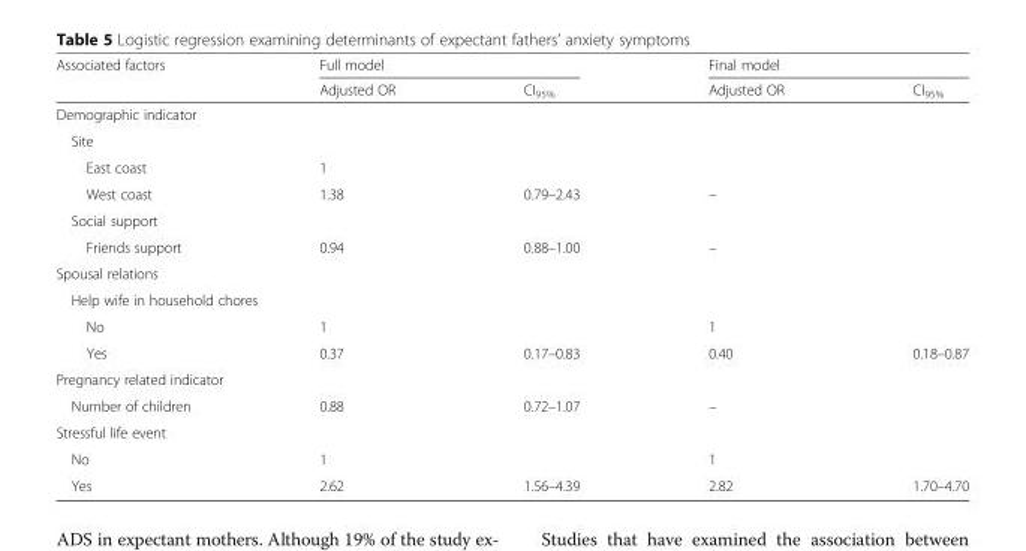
<table><thead><tr><td rowspan="2">Associated factors</td><td colspan="2">Full model</td><td colspan="2">Final model</td></tr><tr><td>Adjusted OR</td><td>CI<sub>95%</sub></td><td>Adjusted OR</td><td>CI<sub>95%</sub></td></tr></thead><tbody><tr><td colspan="5">Demographic indicator</td></tr><tr><td colspan="5">Site</td></tr><tr><td>East coast</td><td>1</td><td></td><td></td><td></td></tr><tr><td>West coast</td><td>1.38</td><td>0.79–2.43</td><td>–</td><td></td></tr><tr><td colspan="5">Social support</td></tr><tr><td>Friends support</td><td>0.94</td><td>0.88–1.00</td><td>–</td><td></td></tr><tr><td colspan="5">Spousal relations</td></tr><tr><td colspan="5">Help wife in household chores</td></tr><tr><td>No</td><td>1</td><td></td><td>1</td><td></td></tr><tr><td>Yes</td><td>0.37</td><td>0.17–0.83</td><td>0.40</td><td>0.18–0.87</td></tr><tr><td colspan="5">Pregnancy related indicator</td></tr><tr><td>Number of children</td><td>0.88</td><td>0.72–1.07</td><td>–</td><td></td></tr><tr><td colspan="5">Stressful life event</td></tr><tr><td>No</td><td>1</td><td></td><td>1</td><td></td></tr><tr><td>Yes</td><td>2.62</td><td>1.56–4.39</td><td>2.82</td><td>1.70–4.70</td></tr></tbody></table>